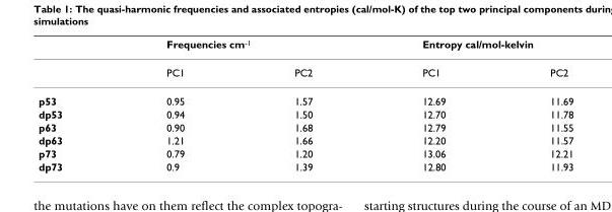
<table><thead><tr><td rowspan="2"></td><td colspan="2">Frequencies cm<sup>-1</sup></td><td colspan="2">Entropy cal/mol-kelvin</td></tr><tr><td>PC1</td><td>PC2</td><td>PC1</td><td>PC2</td></tr></thead><tbody><tr><td>p53</td><td>0.95</td><td>1.57</td><td>12.69</td><td>11.69</td></tr><tr><td>dp53</td><td>0.94</td><td>1.50</td><td>12.70</td><td>11.78</td></tr><tr><td>p63</td><td>0.90</td><td>1.68</td><td>12.79</td><td>11.55</td></tr><tr><td>dp63</td><td>1.21</td><td>1.66</td><td>12.20</td><td>11.57</td></tr><tr><td>p73</td><td>0.79</td><td>1.20</td><td>13.06</td><td>12.21</td></tr><tr><td>dp73</td><td>0.9</td><td>1.39</td><td>12.80</td><td>11.93</td></tr></tbody></table>